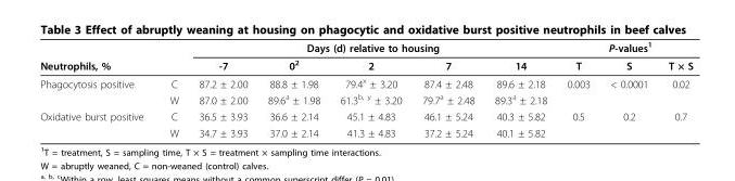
<table><thead><tr><td rowspan="2">Neutrophils, %</td><td rowspan="2"></td><td colspan="5">Days (d) relative to housing</td><td colspan="3">P-values<sup>1</sup></td></tr><tr><td>-7</td><td>0<sup>2</sup></td><td>2</td><td>7</td><td>14</td><td>T</td><td>S</td><td>T × S</td></tr></thead><tbody><tr><td rowspan="2">Phagocytosis positive</td><td>C</td><td>87.2 ± 2.00</td><td>88.8 ± 1.98</td><td>79.4<sup>x</sup> ± 3.20</td><td>87.4 ± 2.48</td><td>89.6 ± 2.18</td><td>0.003</td><td>&lt; 0.0001</td><td>0.02</td></tr><tr><td>W</td><td>87.0 ± 2.00</td><td>89.6<sup>a</sup> ± 1.98</td><td>61.3<sup>b, y</sup> ± 3.20</td><td>79.7<sup>a</sup> ± 2.48</td><td>89.3<sup>a</sup> ± 2.18</td><td></td><td></td><td></td></tr><tr><td rowspan="2">Oxidative burst positive</td><td>C</td><td>36.5 ± 3.93</td><td>36.6 ± 2.14</td><td>45.1 ± 4.83</td><td>46.1 ± 5.24</td><td>40.3 ± 5.82</td><td>0.5</td><td>0.2</td><td>0.7</td></tr><tr><td>W</td><td>34.7 ± 3.93</td><td>37.0 ± 2.14</td><td>41.3 ± 4.83</td><td>37.2 ± 5.24</td><td>40.1 ± 5.82</td><td></td><td></td><td></td></tr></tbody></table>